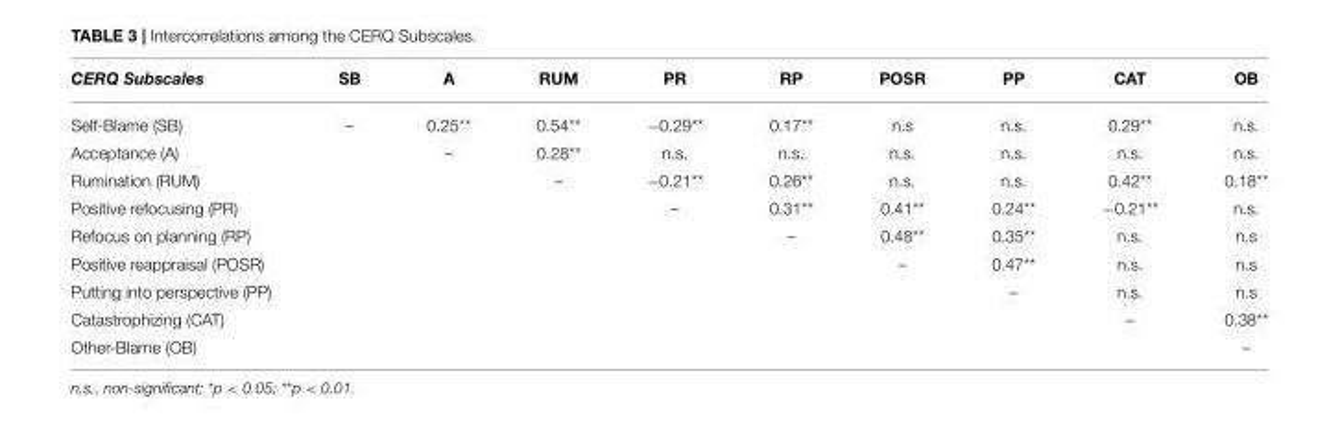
<table><thead><tr><td>CERQ Subscales</td><td>SB</td><td>A</td><td>RUM</td><td>PR</td><td>RP</td><td>POSR</td><td>PP</td><td>CAT</td><td>OB</td></tr></thead><tbody><tr><td>Self-Blame (SB)</td><td>–</td><td>0.25**</td><td>0.54**</td><td>−0.29**</td><td>0.17**</td><td>n.s</td><td>n.s.</td><td>0.29**</td><td>n.s.</td></tr><tr><td>Acceptance (A)</td><td></td><td>–</td><td>0.28**</td><td>n.s.</td><td>n.s.</td><td>n.s.</td><td>n.s.</td><td>n.s.</td><td>n.s.</td></tr><tr><td>Rumination (RUM)</td><td></td><td></td><td>–</td><td>−0.21**</td><td>0.26**</td><td>n.s.</td><td>n.s.</td><td>0.42**</td><td>0.18**</td></tr><tr><td>Positive refocusing (PR)</td><td></td><td></td><td></td><td>–</td><td>0.31**</td><td>0.41**</td><td>0.24**</td><td>−0.21**</td><td>n.s.</td></tr><tr><td>Refocus on planning (RP)</td><td></td><td></td><td></td><td></td><td>–</td><td>0.48**</td><td>0.35**</td><td>n.s.</td><td>n.s</td></tr><tr><td>Positive reappraisal (POSR)</td><td></td><td></td><td></td><td></td><td></td><td>–</td><td>0.47**</td><td>n.s.</td><td>n.s</td></tr><tr><td>Putting into perspective (PP)</td><td></td><td></td><td></td><td></td><td></td><td></td><td>–</td><td>n.s.</td><td>n.s</td></tr><tr><td>Catastrophizing (CAT)</td><td></td><td></td><td></td><td></td><td></td><td></td><td></td><td>–</td><td>0.38**</td></tr><tr><td>Other-Blame (OB)</td><td></td><td></td><td></td><td></td><td></td><td></td><td></td><td></td><td>–</td></tr></tbody></table>